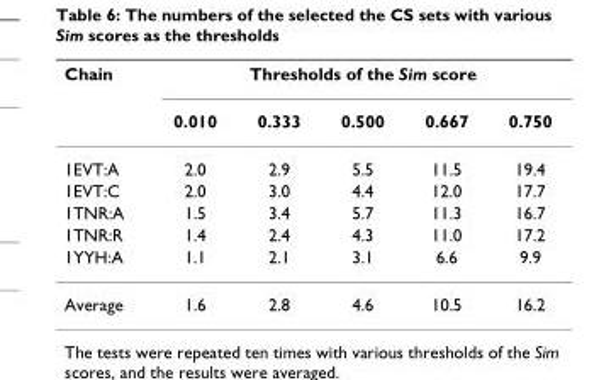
<table><thead><tr><td rowspan="2">Chain</td><td colspan="5">Thresholds of the Sim score</td></tr><tr><td>0.010</td><td>0.333</td><td>0.500</td><td>0.667</td><td>0.750</td></tr></thead><tbody><tr><td>1EVT:A</td><td>2.0</td><td>2.9</td><td>5.5</td><td>11.5</td><td>19.4</td></tr><tr><td>1EVT:C</td><td>2.0</td><td>3.0</td><td>4.4</td><td>12.0</td><td>17.7</td></tr><tr><td>1TNR:A</td><td>1.5</td><td>3.4</td><td>5.7</td><td>11.3</td><td>16.7</td></tr><tr><td>1TNR:R</td><td>1.4</td><td>2.4</td><td>4.3</td><td>11.0</td><td>17.2</td></tr><tr><td>1YYH:A</td><td>1.1</td><td>2.1</td><td>3.1</td><td>6.6</td><td>9.9</td></tr><tr><td>Average</td><td>1.6</td><td>2.8</td><td>4.6</td><td>10.5</td><td>16.2</td></tr></tbody></table>